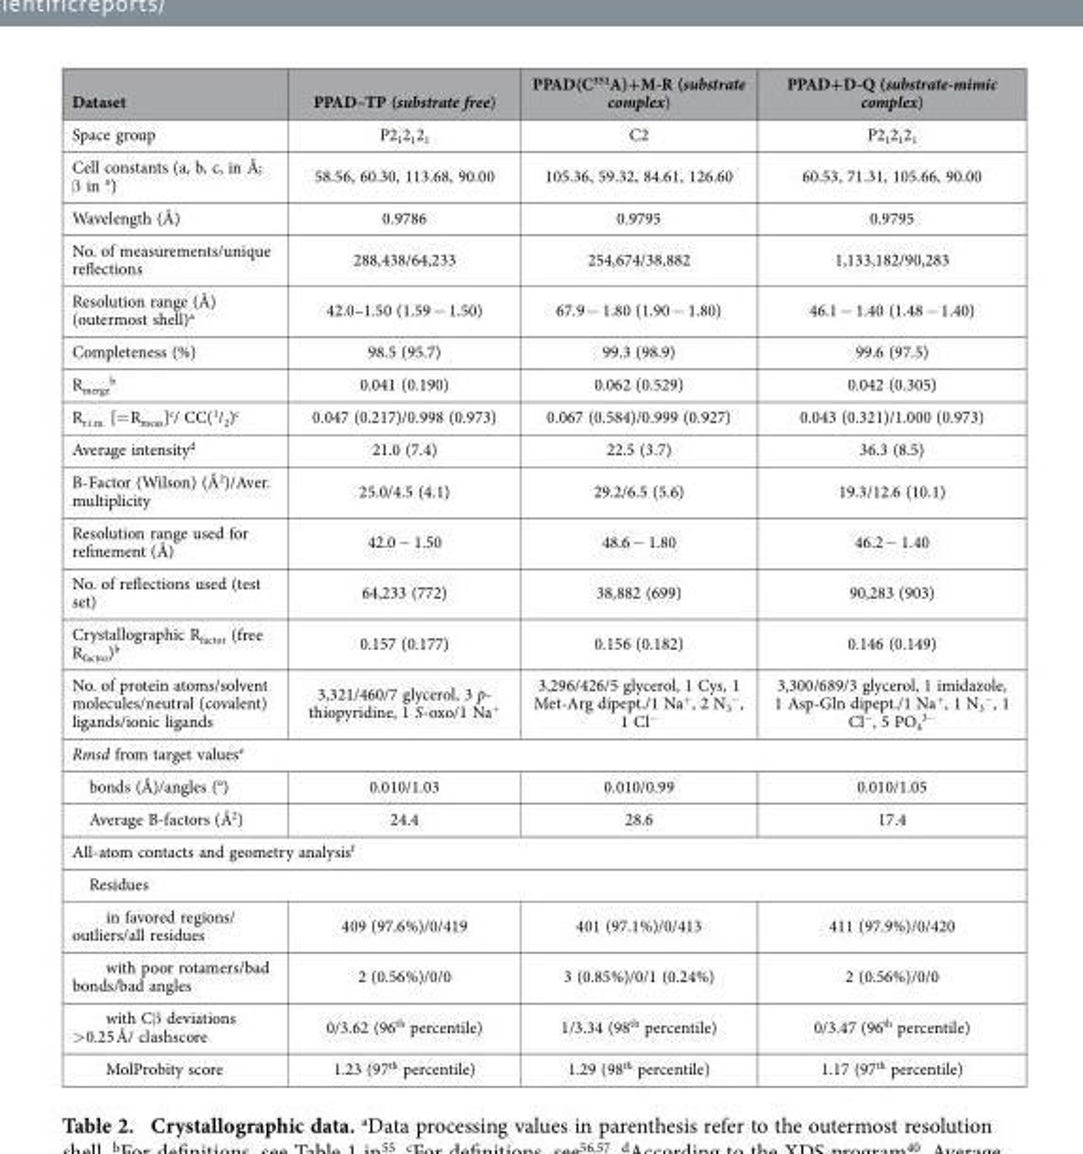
<table><thead><tr><td>Dataset</td><td>PPAD–TP (substrate free)</td><td>PPAD(C<sup>351</sup>A)+M-R (substrate complex)</td><td>PPAD+D-Q (substrate-mimic complex)</td></tr></thead><tbody><tr><td>Space group</td><td>P2<sub>1</sub>2<sub>1</sub>2<sub>1</sub></td><td>C2</td><td>P2<sub>1</sub>2<sub>1</sub>2<sub>1</sub></td></tr><tr><td>Cell constants (a, b, c, in Å; β in °)</td><td>58.56, 60.30, 113.68, 90.00</td><td>105.36, 59.32, 84.61, 126.60</td><td>60.53, 71.31, 105.66, 90.00</td></tr><tr><td>Wavelength (Å)</td><td>0.9786</td><td>0.9795</td><td>0.9795</td></tr><tr><td>No. of measurements/unique reflections</td><td>288,438/64,233</td><td>254,674/38,882</td><td>1,133,182/90,283</td></tr><tr><td>Resolution range (Å) (outermost shell)<sup>a</sup></td><td>42.0–1.50 (1.59 − 1.50)</td><td>67.9 − 1.80 (1.90 − 1.80)</td><td>46.1 − 1.40 (1.48 − 1.40)</td></tr><tr><td>Completeness (%)</td><td>98.5 (95.7)</td><td>99.3 (98.9)</td><td>99.6 (97.5)</td></tr><tr><td>R<sub>merge</sub> <sup>b</sup></td><td>0.041 (0.190)</td><td>0.062 (0.529)</td><td>0.042 (0.305)</td></tr><tr><td>R<sub>r.i.m.</sub> [= R<sub>meas</sub>]<sup>c</sup>/ CC(<sup>1</sup>/<sub>2</sub>)<sup>c</sup></td><td>0.047 (0.217)/0.998 (0.973)</td><td>0.067 (0.584)/0.999 (0.927)</td><td>0.043 (0.321)/1.000 (0.973)</td></tr><tr><td>Average intensity<sup>d</sup></td><td>21.0 (7.4)</td><td>22.5 (3.7)</td><td>36.3 (8.5)</td></tr><tr><td>B-Factor (Wilson) (Å<sup>2</sup>)/Aver. multiplicity</td><td>25.0/4.5 (4.1)</td><td>29.2/6.5 (5.6)</td><td>19.3/12.6 (10.1)</td></tr><tr><td>Resolution range used for refinement (Å)</td><td>42.0 − 1.50</td><td>48.6 − 1.80</td><td>46.2 − 1.40</td></tr><tr><td>No. of reflections used (test set)</td><td>64,233 (772)</td><td>38,882 (699)</td><td>90,283 (903)</td></tr><tr><td>Crystallographic R<sub>factor</sub> (free R<sub>factor</sub>)<sup>b</sup></td><td>0.157 (0.177)</td><td>0.156 (0.182)</td><td>0.146 (0.149)</td></tr><tr><td>No. of protein atoms/solvent molecules/neutral (covalent) ligands/ionic ligands</td><td>3,321/460/7 glycerol, 3 p- thiopyridine, 1 S-oxo/1 Na<sup>+</sup></td><td>3,296/426/5 glycerol, 1 Cys, 1 Met-Arg dipept./1 Na<sup>+</sup>, 2 N<sub>3</sub> <sup>−</sup>, 1 Cl<sup>−</sup></td><td>3,300/689/3 glycerol, 1 imidazole, 1 Asp-Gln dipept./1 Na<sup>+</sup>, 1 N<sub>3</sub> <sup>−</sup>, 1 Cl<sup>−</sup>, 5 PO<sub>4</sub> <sup>3−</sup></td></tr><tr><td colspan="4">Rmsd from target values<sup>e</sup></td></tr><tr><td>bonds (Å)/angles (°)</td><td>0.010/1.03</td><td>0.010/0.99</td><td>0.010/1.05</td></tr><tr><td>Average B-factors (Å<sup>2</sup>)</td><td>24.4</td><td>28.6</td><td>17.4</td></tr><tr><td colspan="4">All-atom contacts and geometry analysis<sup>f</sup></td></tr><tr><td colspan="4">Residues</td></tr><tr><td>in favored regions/ outliers/all residues</td><td>409 (97.6%)/0/419</td><td>401 (97.1%)/0/413</td><td>411 (97.9%)/0/420</td></tr><tr><td>with poor rotamers/bad bonds/bad angles</td><td>2 (0.56%)/0/0</td><td>3 (0.85%)/0/1 (0.24%)</td><td>2 (0.56%)/0/0</td></tr><tr><td>with Cβ deviations &gt; 0.25 Å/ clashscore</td><td>0/3.62 (96<sup>th</sup> percentile)</td><td>1/3.34 (98<sup>th</sup> percentile)</td><td>0/3.47 (96<sup>th</sup> percentile)</td></tr><tr><td>MolProbity score</td><td>1.23 (97<sup>th</sup> percentile)</td><td>1.29 (98<sup>th</sup> percentile)</td><td>1.17 (97<sup>th</sup> percentile)</td></tr></tbody></table>